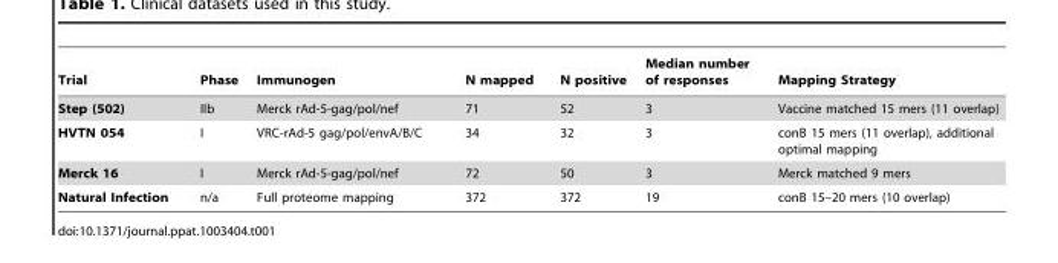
<table><thead><tr><td>Trial</td><td>Phase</td><td>Immunogen</td><td>N mapped</td><td>N positive</td><td>Median number of responses</td><td>Mapping Strategy</td></tr></thead><tbody><tr><td>Step (502)</td><td>IIb</td><td>Merck rAd-5-gag/pol/nef</td><td>71</td><td>52</td><td>3</td><td>Vaccine matched 15 mers (11 overlap)</td></tr><tr><td>HVTN 054</td><td>I</td><td>VRC-rAd-5 gag/pol/envA/B/C</td><td>34</td><td>32</td><td>3</td><td>conB 15 mers (11 overlap), additional optimal mapping</td></tr><tr><td>Merck 16</td><td>I</td><td>Merck rAd-5-gag/pol/nef</td><td>72</td><td>50</td><td>3</td><td>Merck matched 9 mers</td></tr><tr><td>Natural Infection</td><td>n/a</td><td>Full proteome mapping</td><td>372</td><td>372</td><td>19</td><td>conB 15–20 mers (10 overlap)</td></tr></tbody></table>